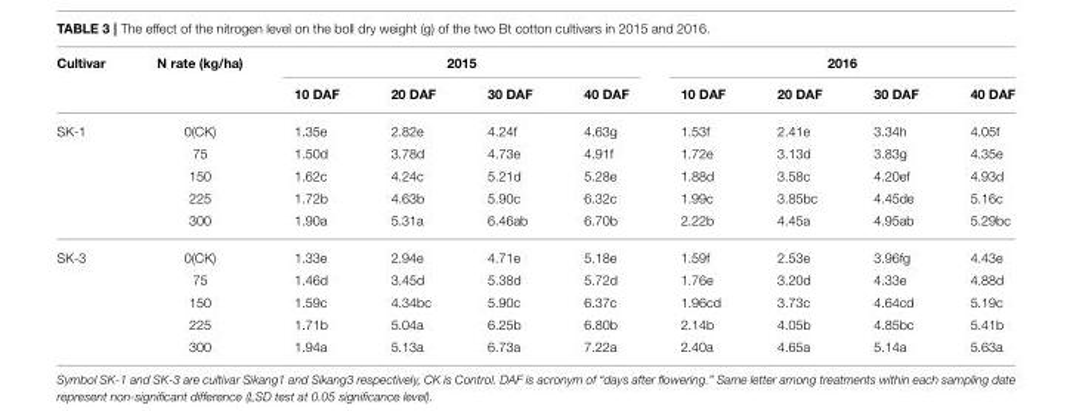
<table><thead><tr><td rowspan="2">Cultivar</td><td rowspan="2">N rate (kg/ha)</td><td colspan="4">2015</td><td colspan="4">2016</td></tr><tr><td>10 DAF</td><td>20 DAF</td><td>30 DAF</td><td>40 DAF</td><td>10 DAF</td><td>20 DAF</td><td>30 DAF</td><td>40 DAF</td></tr></thead><tbody><tr><td rowspan="5">SK-1</td><td>0(CK)</td><td>1.35e</td><td>2.82e</td><td>4.24f</td><td>4.63g</td><td>1.53f</td><td>2.41e</td><td>3.34h</td><td>4.05f</td></tr><tr><td>75</td><td>1.50d</td><td>3.78d</td><td>4.73e</td><td>4.91f</td><td>1.72e</td><td>3.13d</td><td>3.83g</td><td>4.35e</td></tr><tr><td>150</td><td>1.62c</td><td>4.24c</td><td>5.21d</td><td>5.28e</td><td>1.88d</td><td>3.58c</td><td>4.20ef</td><td>4.93d</td></tr><tr><td>225</td><td>1.72b</td><td>4.63b</td><td>5.90c</td><td>6.32c</td><td>1.99c</td><td>3.85bc</td><td>4.45de</td><td>5.16c</td></tr><tr><td>300</td><td>1.90a</td><td>5.31a</td><td>6.46ab</td><td>6.70b</td><td>2.22b</td><td>4.45a</td><td>4.95ab</td><td>5.29bc</td></tr><tr><td rowspan="5">SK-3</td><td>0(CK)</td><td>1.33e</td><td>2.94e</td><td>4.71e</td><td>5.18e</td><td>1.59f</td><td>2.53e</td><td>3.96fg</td><td>4.43e</td></tr><tr><td>75</td><td>1.46d</td><td>3.45d</td><td>5.38d</td><td>5.72d</td><td>1.76e</td><td>3.20d</td><td>4.33e</td><td>4.88d</td></tr><tr><td>150</td><td>1.59c</td><td>4.34bc</td><td>5.90c</td><td>6.37c</td><td>1.96cd</td><td>3.73c</td><td>4.64cd</td><td>5.19c</td></tr><tr><td>225</td><td>1.71b</td><td>5.04a</td><td>6.25b</td><td>6.80b</td><td>2.14b</td><td>4.05b</td><td>4.85bc</td><td>5.41b</td></tr><tr><td>300</td><td>1.94a</td><td>5.13a</td><td>6.73a</td><td>7.22a</td><td>2.40a</td><td>4.65a</td><td>5.14a</td><td>5.63a</td></tr></tbody></table>